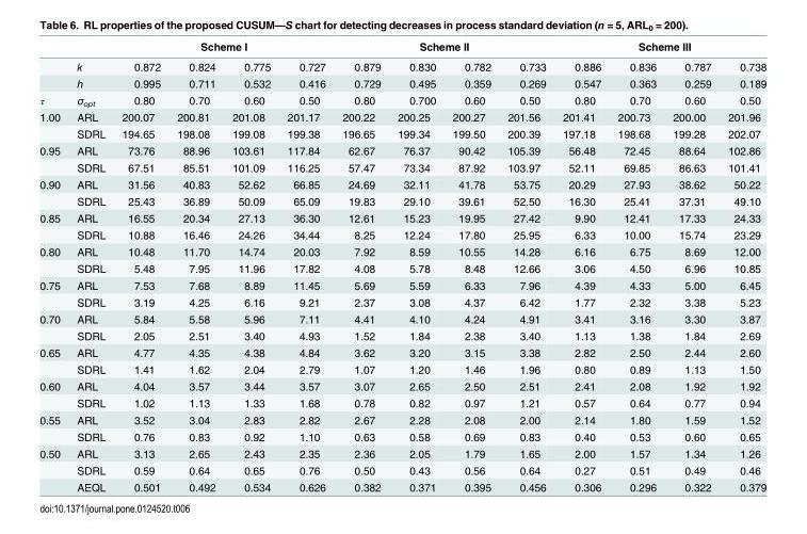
<table><thead><tr><td rowspan="2"></td><td rowspan="2">k</td><td colspan="4">Scheme I</td><td colspan="4">Scheme II</td><td colspan="4">Scheme III</td></tr><tr><td>0.872</td><td>0.824</td><td>0.775</td><td>0.727</td><td>0.879</td><td>0.830</td><td>0.782</td><td>0.733</td><td>0.886</td><td>0.836</td><td>0.787</td><td>0.738</td></tr></thead><tbody><tr><td></td><td>h</td><td>0.995</td><td>0.711</td><td>0.532</td><td>0.416</td><td>0.729</td><td>0.495</td><td>0.359</td><td>0.269</td><td>0.547</td><td>0.363</td><td>0.259</td><td>0.189</td></tr><tr><td>τ</td><td>σ<sub>opt</sub></td><td>0.80</td><td>0.70</td><td>0.60</td><td>0.50</td><td>0.80</td><td>0.700</td><td>0.60</td><td>0.50</td><td>0.80</td><td>0.70</td><td>0.60</td><td>0.50</td></tr><tr><td rowspan="2">1.00</td><td>ARL</td><td>200.07</td><td>200.81</td><td>201.08</td><td>201.17</td><td>200.22</td><td>200.25</td><td>200.27</td><td>201.56</td><td>201.41</td><td>200.73</td><td>200.00</td><td>201.96</td></tr><tr><td>SDRL</td><td>194.65</td><td>198.08</td><td>199.08</td><td>199.38</td><td>196.65</td><td>199.34</td><td>199.50</td><td>200.39</td><td>197.18</td><td>198.68</td><td>199.28</td><td>202.07</td></tr><tr><td rowspan="2">0.95</td><td>ARL</td><td>73.76</td><td>88.96</td><td>103.61</td><td>117.84</td><td>62.67</td><td>76.37</td><td>90.42</td><td>105.39</td><td>56.48</td><td>72.45</td><td>88.64</td><td>102.86</td></tr><tr><td>SDRL</td><td>67.51</td><td>85.51</td><td>101.09</td><td>116.25</td><td>57.47</td><td>73.34</td><td>87.92</td><td>103.97</td><td>52.11</td><td>69.85</td><td>86.63</td><td>101.41</td></tr><tr><td rowspan="2">0.90</td><td>ARL</td><td>31.56</td><td>40.83</td><td>52.62</td><td>66.85</td><td>24.69</td><td>32.11</td><td>41.78</td><td>53.75</td><td>20.29</td><td>27.93</td><td>38.62</td><td>50.22</td></tr><tr><td>SDRL</td><td>25.43</td><td>36.89</td><td>50.09</td><td>65.09</td><td>19.83</td><td>29.10</td><td>39.61</td><td>52.50</td><td>16.30</td><td>25.41</td><td>37.31</td><td>49.10</td></tr><tr><td rowspan="2">0.85</td><td>ARL</td><td>16.55</td><td>20.34</td><td>27.13</td><td>36.30</td><td>12.61</td><td>15.23</td><td>19.95</td><td>27.42</td><td>9.90</td><td>12.41</td><td>17.33</td><td>24.33</td></tr><tr><td>SDRL</td><td>10.88</td><td>16.46</td><td>24.26</td><td>34.44</td><td>8.25</td><td>12.24</td><td>17.80</td><td>25.95</td><td>6.33</td><td>10.00</td><td>15.74</td><td>23.29</td></tr><tr><td rowspan="2">0.80</td><td>ARL</td><td>10.48</td><td>11.70</td><td>14.74</td><td>20.03</td><td>7.92</td><td>8.59</td><td>10.55</td><td>14.28</td><td>6.16</td><td>6.75</td><td>8.69</td><td>12.00</td></tr><tr><td>SDRL</td><td>5.48</td><td>7.95</td><td>11.96</td><td>17.82</td><td>4.08</td><td>5.78</td><td>8.48</td><td>12.66</td><td>3.06</td><td>4.50</td><td>6.96</td><td>10.85</td></tr><tr><td rowspan="2">0.75</td><td>ARL</td><td>7.53</td><td>7.68</td><td>8.89</td><td>11.45</td><td>5.69</td><td>5.59</td><td>6.33</td><td>7.96</td><td>4.39</td><td>4.33</td><td>5.00</td><td>6.45</td></tr><tr><td>SDRL</td><td>3.19</td><td>4.25</td><td>6.16</td><td>9.21</td><td>2.37</td><td>3.08</td><td>4.37</td><td>6.42</td><td>1.77</td><td>2.32</td><td>3.38</td><td>5.23</td></tr><tr><td rowspan="2">0.70</td><td>ARL</td><td>5.84</td><td>5.58</td><td>5.96</td><td>7.11</td><td>4.41</td><td>4.10</td><td>4.24</td><td>4.91</td><td>3.41</td><td>3.16</td><td>3.30</td><td>3.87</td></tr><tr><td>SDRL</td><td>2.05</td><td>2.51</td><td>3.40</td><td>4.93</td><td>1.52</td><td>1.84</td><td>2.38</td><td>3.40</td><td>1.13</td><td>1.38</td><td>1.84</td><td>2.69</td></tr><tr><td rowspan="2">0.65</td><td>ARL</td><td>4.77</td><td>4.35</td><td>4.38</td><td>4.84</td><td>3.62</td><td>3.20</td><td>3.15</td><td>3.38</td><td>2.82</td><td>2.50</td><td>2.44</td><td>2.60</td></tr><tr><td>SDRL</td><td>1.41</td><td>1.62</td><td>2.04</td><td>2.79</td><td>1.07</td><td>1.20</td><td>1.46</td><td>1.96</td><td>0.80</td><td>0.89</td><td>1.13</td><td>1.50</td></tr><tr><td rowspan="2">0.60</td><td>ARL</td><td>4.04</td><td>3.57</td><td>3.44</td><td>3.57</td><td>3.07</td><td>2.65</td><td>2.50</td><td>2.51</td><td>2.41</td><td>2.08</td><td>1.92</td><td>1.92</td></tr><tr><td>SDRL</td><td>1.02</td><td>1.13</td><td>1.33</td><td>1.68</td><td>0.78</td><td>0.82</td><td>0.97</td><td>1.21</td><td>0.57</td><td>0.64</td><td>0.77</td><td>0.94</td></tr><tr><td rowspan="2">0.55</td><td>ARL</td><td>3.52</td><td>3.04</td><td>2.83</td><td>2.82</td><td>2.67</td><td>2.28</td><td>2.08</td><td>2.00</td><td>2.14</td><td>1.80</td><td>1.59</td><td>1.52</td></tr><tr><td>SDRL</td><td>0.76</td><td>0.83</td><td>0.92</td><td>1.10</td><td>0.63</td><td>0.58</td><td>0.69</td><td>0.83</td><td>0.40</td><td>0.53</td><td>0.60</td><td>0.65</td></tr><tr><td rowspan="3">0.50</td><td>ARL</td><td>3.13</td><td>2.65</td><td>2.43</td><td>2.35</td><td>2.36</td><td>2.05</td><td>1.79</td><td>1.65</td><td>2.00</td><td>1.57</td><td>1.34</td><td>1.26</td></tr><tr><td>SDRL</td><td>0.59</td><td>0.64</td><td>0.65</td><td>0.76</td><td>0.50</td><td>0.43</td><td>0.56</td><td>0.64</td><td>0.27</td><td>0.51</td><td>0.49</td><td>0.46</td></tr><tr><td>AEQL</td><td>0.501</td><td>0.492</td><td>0.534</td><td>0.626</td><td>0.382</td><td>0.371</td><td>0.395</td><td>0.456</td><td>0.306</td><td>0.296</td><td>0.322</td><td>0.379</td></tr></tbody></table>